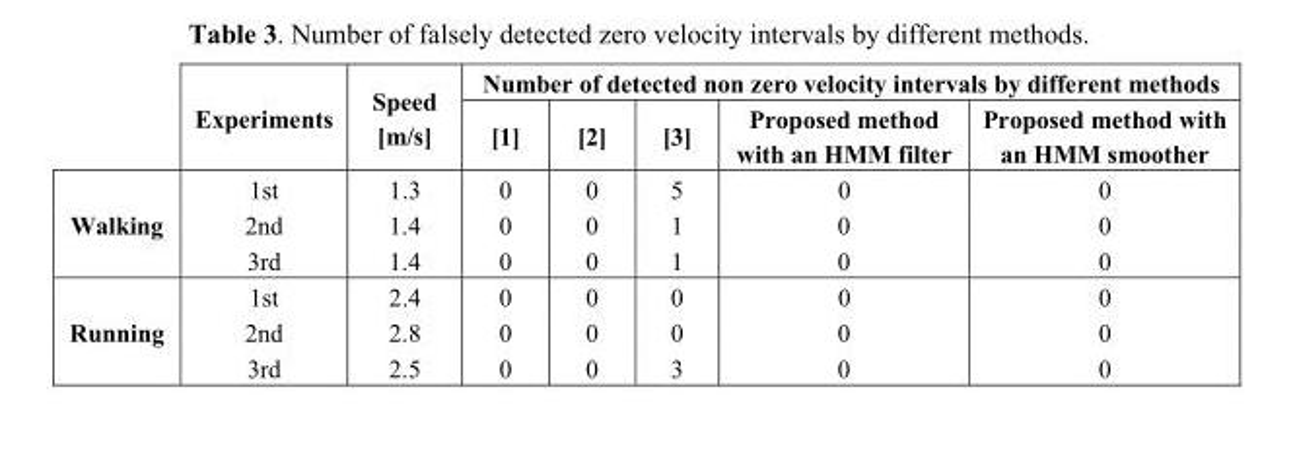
<table><thead><tr><td rowspan="2"></td><td rowspan="2">Experiments</td><td rowspan="2">Speed [m/s]</td><td colspan="5">Number of detected non zero velocity intervals by different methods</td></tr><tr><td>[1]</td><td>[2]</td><td>[3]</td><td>Proposed method with an HMM filter</td><td>Proposed method with an HMM smoother</td></tr></thead><tbody><tr><td rowspan="3">Walking</td><td>1st</td><td>1.3</td><td>0</td><td>0</td><td>5</td><td>0</td><td>0</td></tr><tr><td>2nd</td><td>1.4</td><td>0</td><td>0</td><td>1</td><td>0</td><td>0</td></tr><tr><td>3rd</td><td>1.4</td><td>0</td><td>0</td><td>1</td><td>0</td><td>0</td></tr><tr><td rowspan="3">Running</td><td>1st</td><td>2.4</td><td>0</td><td>0</td><td>0</td><td>0</td><td>0</td></tr><tr><td>2nd</td><td>2.8</td><td>0</td><td>0</td><td>0</td><td>0</td><td>0</td></tr><tr><td>3rd</td><td>2.5</td><td>0</td><td>0</td><td>3</td><td>0</td><td>0</td></tr></tbody></table>